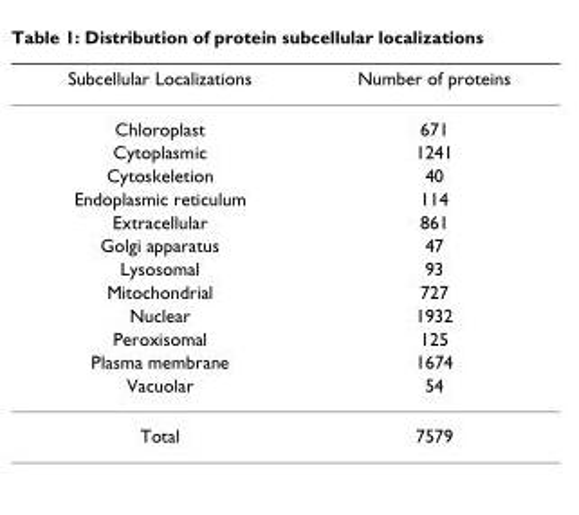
<table><thead><tr><td>Subcellular Localizations</td><td>Number of proteins</td></tr></thead><tbody><tr><td>Chloroplast</td><td>671</td></tr><tr><td>Cytoplasmic</td><td>1241</td></tr><tr><td>Cytoskeletion</td><td>40</td></tr><tr><td>Endoplasmic reticulum</td><td>114</td></tr><tr><td>Extracellular</td><td>861</td></tr><tr><td>Golgi apparatus</td><td>47</td></tr><tr><td>Lysosomal</td><td>93</td></tr><tr><td>Mitochondrial</td><td>727</td></tr><tr><td>Nuclear</td><td>1932</td></tr><tr><td>Peroxisomal</td><td>125</td></tr><tr><td>Plasma membrane</td><td>1674</td></tr><tr><td>Vacuolar</td><td>54</td></tr><tr><td>Total</td><td>7579</td></tr></tbody></table>